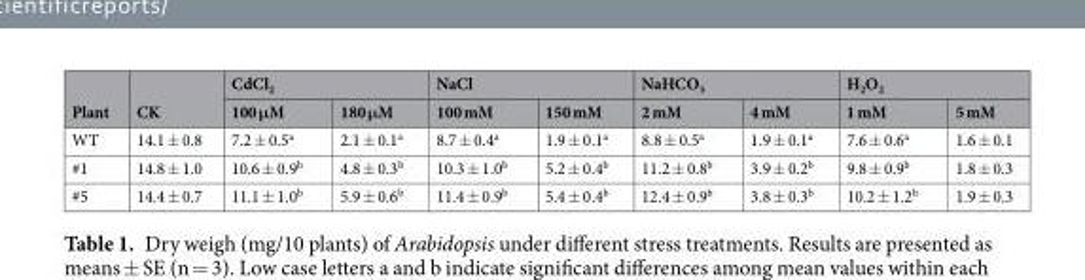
<table><thead><tr><td rowspan="2">Plant</td><td rowspan="2">CK</td><td colspan="2">CdCl<sub>2</sub></td><td colspan="2">NaCl</td><td colspan="2">NaHCO<sub>3</sub></td><td colspan="2">H<sub>2</sub>O<sub>2</sub></td></tr><tr><td>100 μM</td><td>180 μM</td><td>100 mM</td><td>150 mM</td><td>2 mM</td><td>4 mM</td><td>1 mM</td><td>5 mM</td></tr></thead><tbody><tr><td>WT</td><td>14.1 ± 0.8</td><td>7.2 ± 0.5<sup>a</sup></td><td>2.1 ± 0.1<sup>a</sup></td><td>8.7 ± 0.4<sup>a</sup></td><td>1.9 ± 0.1<sup>a</sup></td><td>8.8 ± 0.5<sup>a</sup></td><td>1.9 ± 0.1<sup>a</sup></td><td>7.6 ± 0.6<sup>a</sup></td><td>1.6 ± 0.1</td></tr><tr><td>#1</td><td>14.8 ± 1.0</td><td>10.6 ± 0.9<sup>b</sup></td><td>4.8 ± 0.3<sup>b</sup></td><td>10.3 ± 1.0<sup>b</sup></td><td>5.2 ± 0.4<sup>b</sup></td><td>11.2 ± 0.8<sup>b</sup></td><td>3.9 ± 0.2<sup>b</sup></td><td>9.8 ± 0.9<sup>b</sup></td><td>1.8 ± 0.3</td></tr><tr><td>#5</td><td>14.4 ± 0.7</td><td>11.1 ± 1.0<sup>b</sup></td><td>5.9 ± 0.6<sup>b</sup></td><td>11.4 ± 0.9<sup>b</sup></td><td>5.4 ± 0.4<sup>b</sup></td><td>12.4 ± 0.9<sup>b</sup></td><td>3.8 ± 0.3<sup>b</sup></td><td>10.2 ± 1.2<sup>b</sup></td><td>1.9 ± 0.3</td></tr></tbody></table>